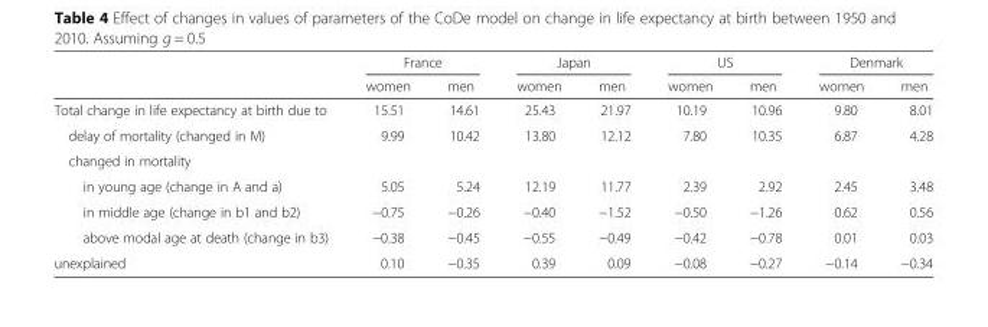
<table><thead><tr><td rowspan="2"></td><td colspan="2">France</td><td colspan="2">Japan</td><td colspan="2">US</td><td colspan="2">Denmark</td></tr><tr><td>women</td><td>men</td><td>women</td><td>men</td><td>women</td><td>men</td><td>women</td><td>men</td></tr></thead><tbody><tr><td>Total change in life expectancy at birth due to</td><td>15.51</td><td>14.61</td><td>25.43</td><td>21.97</td><td>10.19</td><td>10.96</td><td>9.80</td><td>8.01</td></tr><tr><td>delay of mortality (changed in M)</td><td>9.99</td><td>10.42</td><td>13.80</td><td>12.12</td><td>7.80</td><td>10.35</td><td>6.87</td><td>4.28</td></tr><tr><td colspan="9">changed in mortality</td></tr><tr><td>in young age (change in A and a)</td><td>5.05</td><td>5.24</td><td>12.19</td><td>11.77</td><td>2.39</td><td>2.92</td><td>2.45</td><td>3.48</td></tr><tr><td>in middle age (change in b1 and b2)</td><td>−0.75</td><td>−0.26</td><td>−0.40</td><td>−1.52</td><td>−0.50</td><td>−1.26</td><td>0.62</td><td>0.56</td></tr><tr><td>above modal age at death (change in b3)</td><td>−0.38</td><td>−0.45</td><td>−0.55</td><td>−0.49</td><td>−0.42</td><td>−0.78</td><td>0.01</td><td>0.03</td></tr><tr><td>unexplained</td><td>0.10</td><td>−0.35</td><td>0.39</td><td>0.09</td><td>−0.08</td><td>−0.27</td><td>−0.14</td><td>−0.34</td></tr></tbody></table>